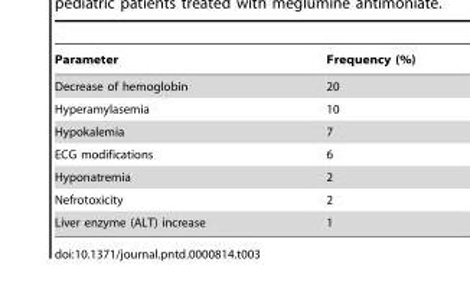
<table><thead><tr><td>Parameter</td><td>Frequency (%)</td></tr></thead><tbody><tr><td>Decrease of hemoglobin</td><td>20</td></tr><tr><td>Hyperamylasemia</td><td>10</td></tr><tr><td>Hypokalemia</td><td>7</td></tr><tr><td>ECG modifications</td><td>6</td></tr><tr><td>Hyponatremia</td><td>2</td></tr><tr><td>Nefrotoxicity</td><td>2</td></tr><tr><td>Liver enzyme (ALT) increase</td><td>1</td></tr></tbody></table>